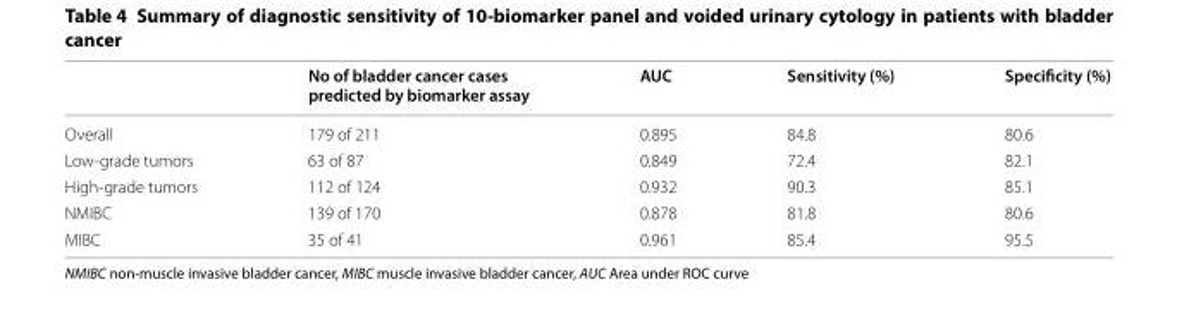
<table><thead><tr><td></td><td>No of bladder cancer cases predicted by biomarker assay</td><td>AUC</td><td>Sensitivity (%)</td><td>Specificity (%)</td></tr></thead><tbody><tr><td>Overall</td><td>179 of 211</td><td>0.895</td><td>84.8</td><td>80.6</td></tr><tr><td>Low-grade tumors</td><td>63 of 87</td><td>0.849</td><td>72.4</td><td>82.1</td></tr><tr><td>High-grade tumors</td><td>112 of 124</td><td>0.932</td><td>90.3</td><td>85.1</td></tr><tr><td>NMIBC</td><td>139 of 170</td><td>0.878</td><td>81.8</td><td>80.6</td></tr><tr><td>MIBC</td><td>35 of 41</td><td>0.961</td><td>85.4</td><td>95.5</td></tr></tbody></table>